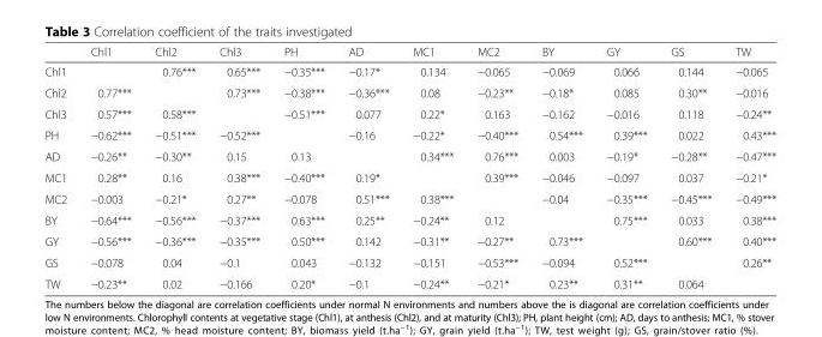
<table><thead><tr><td></td><td>Chl1</td><td>Chl2</td><td>Chl3</td><td>PH</td><td>AD</td><td>MC1</td><td>MC2</td><td>BY</td><td>GY</td><td>GS</td><td>TW</td></tr></thead><tbody><tr><td>Chl1</td><td></td><td>0.76***</td><td>0.65***</td><td>−0.35***</td><td>−0.17*</td><td>0.134</td><td>−0.065</td><td>−0.069</td><td>0.066</td><td>0.144</td><td>−0.065</td></tr><tr><td>Chl2</td><td>0.77***</td><td></td><td>0.73***</td><td>−0.38***</td><td>−0.36***</td><td>0.08</td><td>−0.23**</td><td>−0.18*</td><td>0.085</td><td>0.30**</td><td>−0.016</td></tr><tr><td>Chl3</td><td>0.57***</td><td>0.58***</td><td></td><td>−0.51***</td><td>0.077</td><td>0.22*</td><td>0.163</td><td>−0.162</td><td>−0.016</td><td>0.118</td><td>−0.24**</td></tr><tr><td>PH</td><td>−0.62***</td><td>−0.51***</td><td>−0.52***</td><td></td><td>−0.16</td><td>−0.22*</td><td>−0.40***</td><td>0.54***</td><td>0.39***</td><td>0.022</td><td>0.43***</td></tr><tr><td>AD</td><td>−0.26**</td><td>−0.30**</td><td>0.15</td><td>0.13</td><td></td><td>0.34***</td><td>0.76***</td><td>0.003</td><td>−0.19*</td><td>−0.28**</td><td>−0.47***</td></tr><tr><td>MC1</td><td>0.28**</td><td>0.16</td><td>0.38***</td><td>−0.40***</td><td>0.19*</td><td></td><td>0.39***</td><td>−0.046</td><td>−0.097</td><td>0.037</td><td>−0.21*</td></tr><tr><td>MC2</td><td>−0.003</td><td>−0.21*</td><td>0.27**</td><td>−0.078</td><td>0.51***</td><td>0.38***</td><td></td><td>−0.04</td><td>−0.35***</td><td>−0.45***</td><td>−0.49***</td></tr><tr><td>BY</td><td>−0.64***</td><td>−0.56***</td><td>−0.37***</td><td>0.63***</td><td>0.25**</td><td>−0.24**</td><td>0.12</td><td></td><td>0.75***</td><td>0.033</td><td>0.38***</td></tr><tr><td>GY</td><td>−0.56***</td><td>−0.36***</td><td>−0.35***</td><td>0.50***</td><td>0.142</td><td>−0.31**</td><td>−0.27**</td><td>0.73***</td><td></td><td>0.60***</td><td>0.40***</td></tr><tr><td>GS</td><td>−0.078</td><td>0.04</td><td>−0.1</td><td>0.043</td><td>−0.132</td><td>−0.151</td><td>−0.53***</td><td>−0.094</td><td>0.52***</td><td></td><td>0.26**</td></tr><tr><td>TW</td><td>−0.23**</td><td>0.02</td><td>−0.166</td><td>0.20*</td><td>−0.1</td><td>−0.24**</td><td>−0.21*</td><td>0.23**</td><td>0.31**</td><td>0.064</td><td></td></tr></tbody></table>